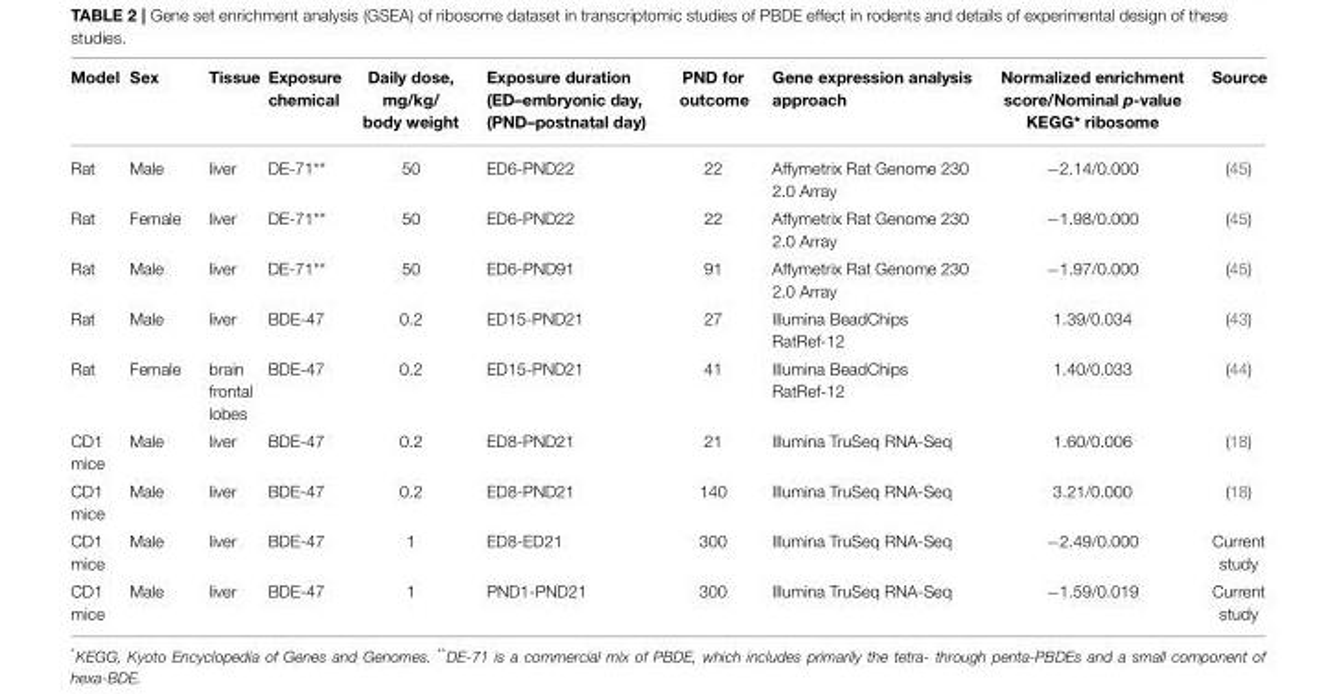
<table><thead><tr><td>Model</td><td>Sex</td><td>Tissue</td><td>Exposure chemical</td><td>Daily dose, mg/kg/ body weight</td><td>Exposure duration (ED–embryonic day, (PND–postnatal day)</td><td>PND for outcome</td><td>Gene expression analysis approach</td><td>Normalized enrichment score/Nominal p-value KEGG* ribosome</td><td>Source</td></tr></thead><tbody><tr><td>Rat</td><td>Male</td><td>liver</td><td>DE-71**</td><td>50</td><td>ED6-PND22</td><td>22</td><td>Affymetrix Rat Genome 230 2.0 Array</td><td>−2.14/0.000</td><td>(45)</td></tr><tr><td>Rat</td><td>Female</td><td>liver</td><td>DE-71**</td><td>50</td><td>ED6-PND22</td><td>22</td><td>Affymetrix Rat Genome 230 2.0 Array</td><td>−1.98/0.000</td><td>(45)</td></tr><tr><td>Rat</td><td>Male</td><td>liver</td><td>DE-71**</td><td>50</td><td>ED6-PND91</td><td>91</td><td>Affymetrix Rat Genome 230 2.0 Array</td><td>−1.97/0.000</td><td>(45)</td></tr><tr><td>Rat</td><td>Male</td><td>liver</td><td>BDE-47</td><td>0.2</td><td>ED15-PND21</td><td>27</td><td>Illumina BeadChips RatRef-12</td><td>1.39/0.034</td><td>(43)</td></tr><tr><td>Rat</td><td>Female</td><td>brain frontal lobes</td><td>BDE-47</td><td>0.2</td><td>ED15-PND21</td><td>41</td><td>Illumina BeadChips RatRef-12</td><td>1.40/0.033</td><td>(44)</td></tr><tr><td>CD1 mice</td><td>Male</td><td>liver</td><td>BDE-47</td><td>0.2</td><td>ED8-PND21</td><td>21</td><td>Illumina TruSeq RNA-Seq</td><td>1.60/0.006</td><td>(18)</td></tr><tr><td>CD1 mice</td><td>Male</td><td>liver</td><td>BDE-47</td><td>0.2</td><td>ED8-PND21</td><td>140</td><td>Illumina TruSeq RNA-Seq</td><td>3.21/0.000</td><td>(18)</td></tr><tr><td>CD1 mice</td><td>Male</td><td>liver</td><td>BDE-47</td><td>1</td><td>ED8-ED21</td><td>300</td><td>Illumina TruSeq RNA-Seq</td><td>−2.49/0.000</td><td>Current study</td></tr><tr><td>CD1 mice</td><td>Male</td><td>liver</td><td>BDE-47</td><td>1</td><td>PND1-PND21</td><td>300</td><td>Illumina TruSeq RNA-Seq</td><td>−1.59/0.019</td><td>Current study</td></tr></tbody></table>